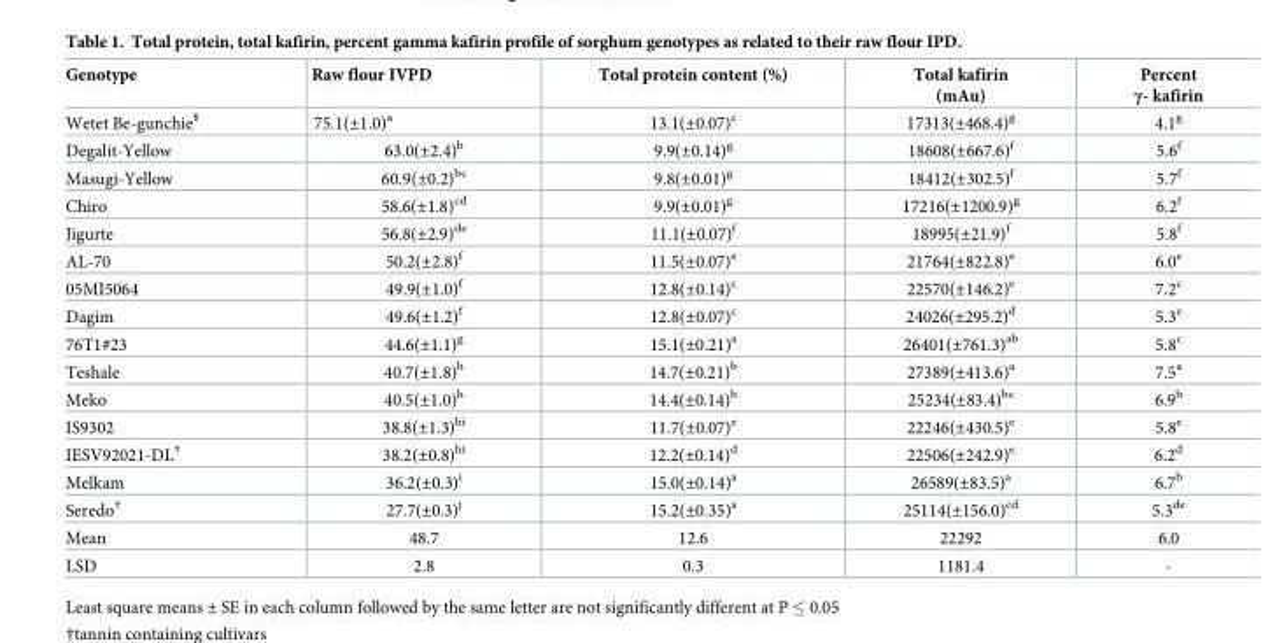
<table><thead><tr><td>Genotype</td><td>Raw flour IVPD</td><td>Total protein content (%)</td><td>Total kafirin (mAu)</td><td>Percent γ- kafirin</td></tr></thead><tbody><tr><td>Wetet Be-gunchie<sup>¥</sup></td><td>75.1(±1.0)<sup>a</sup></td><td>13.1(±0.07)<sup>c</sup></td><td>17313(±468.4)<sup>g</sup></td><td>4.1<sup>g</sup></td></tr><tr><td>Degalit-Yellow</td><td>63.0(±2.4)<sup>b</sup></td><td>9.9(±0.14)<sup>g</sup></td><td>18608(±667.6)<sup>f</sup></td><td>5.6<sup>f</sup></td></tr><tr><td>Masugi-Yellow</td><td>60.9(±0.2)<sup>bc</sup></td><td>9.8(±0.01)<sup>g</sup></td><td>18412(±302.5)<sup>f</sup></td><td>5.7<sup>f</sup></td></tr><tr><td>Chiro</td><td>58.6(±1.8)<sup>cd</sup></td><td>9.9(±0.01)<sup>g</sup></td><td>17216(±1200.9)<sup>g</sup></td><td>6.2<sup>f</sup></td></tr><tr><td>Jigurte</td><td>56.8(±2.9)<sup>de</sup></td><td>11.1(±0.07)<sup>f</sup></td><td>18995(±21.9)<sup>f</sup></td><td>5.8<sup>f</sup></td></tr><tr><td>AL-70</td><td>50.2(±2.8)<sup>f</sup></td><td>11.5(±0.07)<sup>e</sup></td><td>21764(±822.8)<sup>e</sup></td><td>6.0<sup>e</sup></td></tr><tr><td>05MI5064</td><td>49.9(±1.0)<sup>f</sup></td><td>12.8(±0.14)<sup>c</sup></td><td>22570(±146.2)<sup>e</sup></td><td>7.2<sup>c</sup></td></tr><tr><td>Dagim</td><td>49.6(±1.2)<sup>f</sup></td><td>12.8(±0.07)<sup>c</sup></td><td>24026(±295.2)<sup>d</sup></td><td>5.3<sup>e</sup></td></tr><tr><td>76T1#23</td><td>44.6(±1.1)<sup>g</sup></td><td>15.1(±0.21)<sup>a</sup></td><td>26401(±761.3)<sup>ab</sup></td><td>5.8<sup>c</sup></td></tr><tr><td>Teshale</td><td>40.7(±1.8)<sup>h</sup></td><td>14.7(±0.21)<sup>b</sup></td><td>27389(±413.6)<sup>a</sup></td><td>7.5<sup>a</sup></td></tr><tr><td>Meko</td><td>40.5(±1.0)<sup>h</sup></td><td>14.4(±0.14)<sup>b</sup></td><td>25234(±83.4)<sup>bc</sup></td><td>6.9<sup>b</sup></td></tr><tr><td>IS9302</td><td>38.8(±1.3)<sup>hi</sup></td><td>11.7(±0.07)<sup>e</sup></td><td>22246(±430.5)<sup>e</sup></td><td>5.8<sup>e</sup></td></tr><tr><td>IESV92021-DL<sup>†</sup></td><td>38.2(±0.8)<sup>hi</sup></td><td>12.2(±0.14)<sup>d</sup></td><td>22506(±242.9)<sup>e</sup></td><td>6.2<sup>d</sup></td></tr><tr><td>Melkam</td><td>36.2(±0.3)<sup>i</sup></td><td>15.0(±0.14)<sup>a</sup></td><td>26589(±83.5)<sup>a</sup></td><td>6.7<sup>b</sup></td></tr><tr><td>Seredo<sup>†</sup></td><td>27.7(±0.3)<sup>j</sup></td><td>15.2(±0.35)<sup>a</sup></td><td>25114(±156.0)<sup>cd</sup></td><td>5.3<sup>de</sup></td></tr><tr><td>Mean</td><td>48.7</td><td>12.6</td><td>22292</td><td>6.0</td></tr><tr><td>LSD</td><td>2.8</td><td>0.3</td><td>1181.4</td><td>-</td></tr></tbody></table>